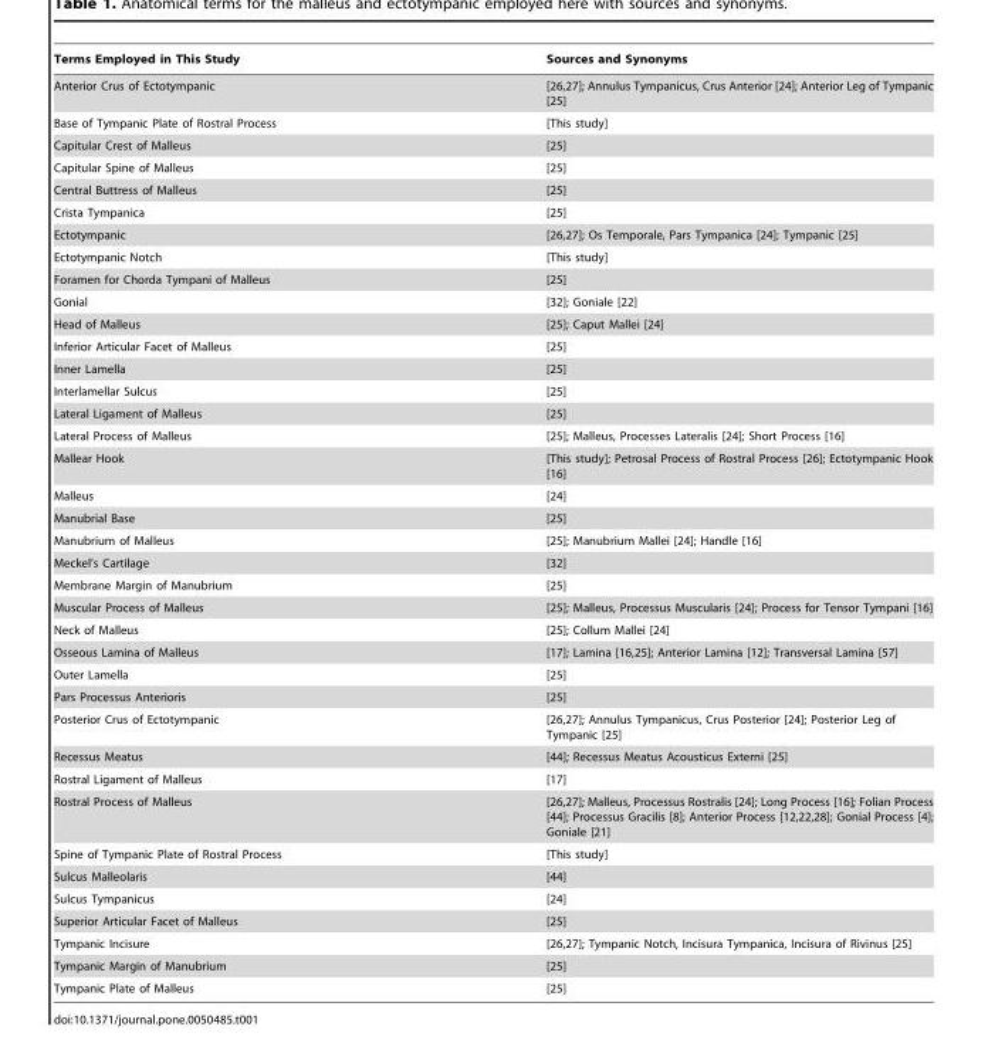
<table><thead><tr><td>Terms Employed in This Study</td><td>Sources and Synonyms</td></tr></thead><tbody><tr><td>Anterior Crus of Ectotympanic</td><td>[26,27]; Annulus Tympanicus, Crus Anterior [24]; Anterior Leg of Tympanic [25]</td></tr><tr><td>Base of Tympanic Plate of Rostral Process</td><td>[This study]</td></tr><tr><td>Capitular Crest of Malleus</td><td>[25]</td></tr><tr><td>Capitular Spine of Malleus</td><td>[25]</td></tr><tr><td>Central Buttress of Malleus</td><td>[25]</td></tr><tr><td>Crista Tympanica</td><td>[25]</td></tr><tr><td>Ectotympanic</td><td>[26,27]; Os Temporale, Pars Tympanica [24]; Tympanic [25]</td></tr><tr><td>Ectotympanic Notch</td><td>[This study]</td></tr><tr><td>Foramen for Chorda Tympani of Malleus</td><td>[25]</td></tr><tr><td>Gonial</td><td>[32]; Goniale [22]</td></tr><tr><td>Head of Malleus</td><td>[25]; Caput Mallei [24]</td></tr><tr><td>Inferior Articular Facet of Malleus</td><td>[25]</td></tr><tr><td>Inner Lamella</td><td>[25]</td></tr><tr><td>Interlamellar Sulcus</td><td>[25]</td></tr><tr><td>Lateral Ligament of Malleus</td><td>[25]</td></tr><tr><td>Lateral Process of Malleus</td><td>[25]; Malleus, Processes Lateralis [24]; Short Process [16]</td></tr><tr><td>Mallear Hook</td><td>[This study]; Petrosal Process of Rostral Process [26]; Ectotympanic Hook [16]</td></tr><tr><td>Malleus</td><td>[24]</td></tr><tr><td>Manubrial Base</td><td>[25]</td></tr><tr><td>Manubrium of Malleus</td><td>[25]; Manubrium Mallei [24]; Handle [16]</td></tr><tr><td>Meckel’s Cartilage</td><td>[32]</td></tr><tr><td>Membrane Margin of Manubrium</td><td>[25]</td></tr><tr><td>Muscular Process of Malleus</td><td>[25]; Malleus, Processus Muscularis [24]; Process for Tensor Tympani [16]</td></tr><tr><td>Neck of Malleus</td><td>[25]; Collum Mallei [24]</td></tr><tr><td>Osseous Lamina of Malleus</td><td>[17]; Lamina [16,25]; Anterior Lamina [12]; Transversal Lamina [57]</td></tr><tr><td>Outer Lamella</td><td>[25]</td></tr><tr><td>Pars Processus Anterioris</td><td>[25]</td></tr><tr><td>Posterior Crus of Ectotympanic</td><td>[26,27]; Annulus Tympanicus, Crus Posterior [24]; Posterior Leg of Tympanic [25]</td></tr><tr><td>Recessus Meatus</td><td>[44]; Recessus Meatus Acousticus Externi [25]</td></tr><tr><td>Rostral Ligament of Malleus</td><td>[17]</td></tr><tr><td>Rostral Process of Malleus</td><td>[26,27]; Malleus, Processus Rostralis [24]; Long Process [16]; Folian Process [44]; Processus Gracilis [8]; Anterior Process [12,22,28]; Gonial Process [4]; Goniale [21]</td></tr><tr><td>Spine of Tympanic Plate of Rostral Process</td><td>[This study]</td></tr><tr><td>Sulcus Malleolaris</td><td>[44]</td></tr><tr><td>Sulcus Tympanicus</td><td>[24]</td></tr><tr><td>Superior Articular Facet of Malleus</td><td>[25]</td></tr><tr><td>Tympanic Incisure</td><td>[26,27]; Tympanic Notch, Incisura Tympanica, Incisura of Rivinus [25]</td></tr><tr><td>Tympanic Margin of Manubrium</td><td>[25]</td></tr><tr><td>Tympanic Plate of Malleus</td><td>[25]</td></tr></tbody></table>